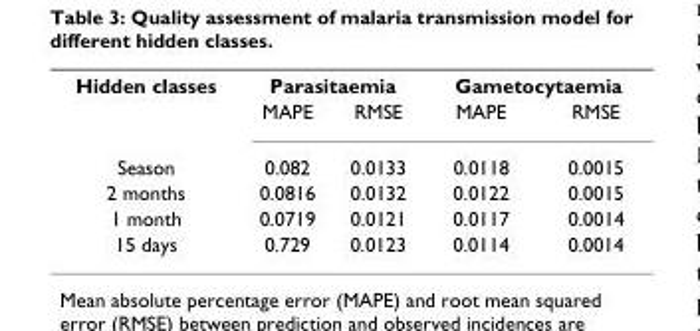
<table><tbody><tr><td rowspan="2">Hidden classes</td><td colspan="2">Parasitaemia</td><td colspan="2">Gametocytaemia</td></tr><tr><td>MAPE</td><td>RMSE</td><td>MAPE</td><td>RMSE</td></tr><tr><td>Season</td><td>0.082</td><td>0.0133</td><td>0.0118</td><td>0.0015</td></tr><tr><td>2 months</td><td>0.0816</td><td>0.0132</td><td>0.0122</td><td>0.0015</td></tr><tr><td>1 month</td><td>0.0719</td><td>0.0121</td><td>0.0117</td><td>0.0014</td></tr><tr><td>15 days</td><td>0.729</td><td>0.0123</td><td>0.0114</td><td>0.0014</td></tr></tbody></table>